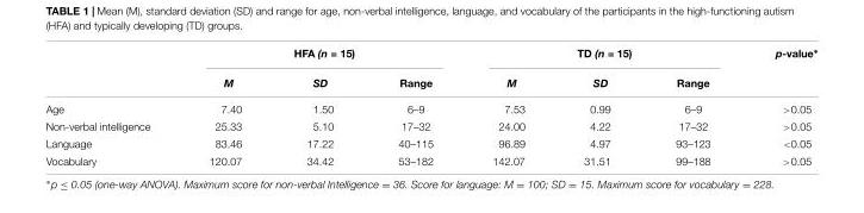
<table><thead><tr><td rowspan="2"></td><td colspan="3">HFA (n = 15)</td><td colspan="3">TD (n = 15)</td><td rowspan="2">p-value∗</td></tr><tr><td>M</td><td>SD</td><td>Range</td><td>M</td><td>SD</td><td>Range</td></tr></thead><tbody><tr><td>Age</td><td>7.40</td><td>1.50</td><td>6–9</td><td>7.53</td><td>0.99</td><td>6–9</td><td>&gt;0.05</td></tr><tr><td>Non-verbal intelligence</td><td>25.33</td><td>5.10</td><td>17–32</td><td>24.00</td><td>4.22</td><td>17–32</td><td>&gt;0.05</td></tr><tr><td>Language</td><td>83.46</td><td>17.22</td><td>40–115</td><td>96.89</td><td>4.97</td><td>93–123</td><td>&lt;0.05</td></tr><tr><td>Vocabulary</td><td>120.07</td><td>34.42</td><td>53–182</td><td>142.07</td><td>31.51</td><td>99–188</td><td>&gt;0.05</td></tr></tbody></table>